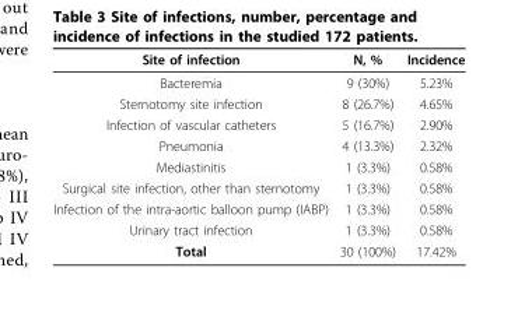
<table><thead><tr><td>Site of infection</td><td>N, %</td><td>Incidence</td></tr></thead><tbody><tr><td>Bacteremia</td><td>9 (30%)</td><td>5.23%</td></tr><tr><td>Sternotomy site infection</td><td>8 (26.7%)</td><td>4.65%</td></tr><tr><td>Infection of vascular catheters</td><td>5 (16.7%)</td><td>2.90%</td></tr><tr><td>Pneumonia</td><td>4 (13.3%)</td><td>2.32%</td></tr><tr><td>Mediastinitis</td><td>1 (3.3%)</td><td>0.58%</td></tr><tr><td>Surgical site infection, other than sternotomy</td><td>1 (3.3%)</td><td>0.58%</td></tr><tr><td>Infection of the intra-aortic balloon pump (IABP)</td><td>1 (3.3%)</td><td>0.58%</td></tr><tr><td>Urinary tract infection</td><td>1 (3.3%)</td><td>0.58%</td></tr><tr><td>Total</td><td>30 (100%)</td><td>17.42%</td></tr></tbody></table>